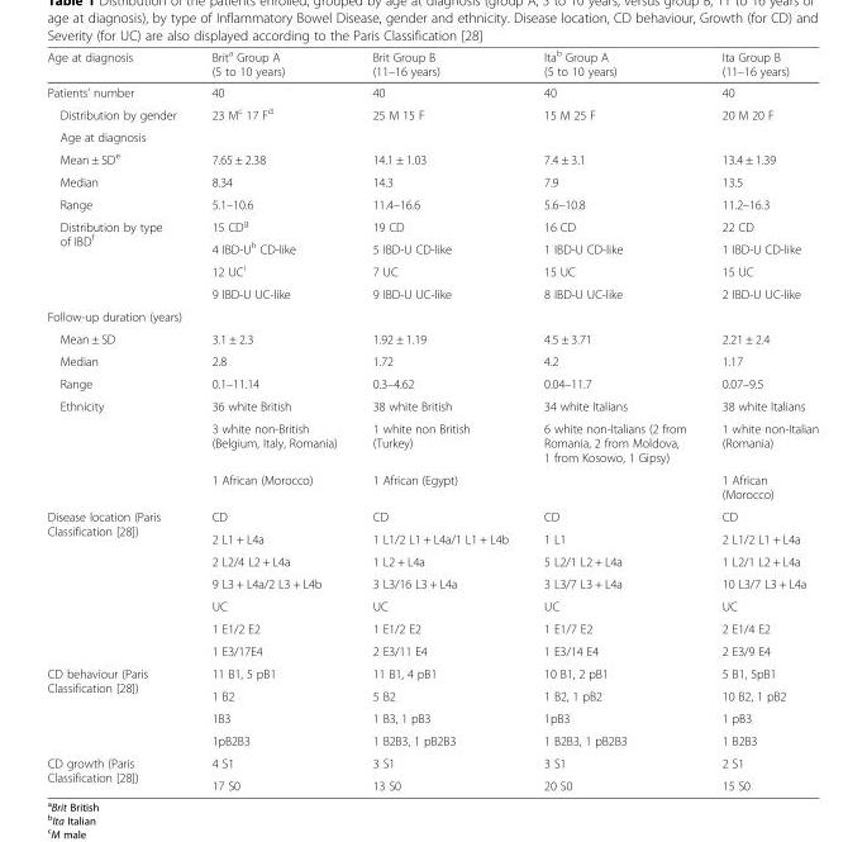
<table><thead><tr><td>Age at diagnosis</td><td>Brit<sup>a</sup> Group A (5 to 10 years)</td><td>Brit Group B (11–16 years)</td><td>Ita<sup>b</sup> Group A (5 to 10 years)</td><td>Ita Group B (11–16 years)</td></tr></thead><tbody><tr><td>Patients’ number</td><td>40</td><td>40</td><td>40</td><td>40</td></tr><tr><td>Distribution by gender</td><td>23 M<sup>c</sup> 17 F<sup>d</sup></td><td>25 M 15 F</td><td>15 M 25 F</td><td>20 M 20 F</td></tr><tr><td colspan="5">Age at diagnosis</td></tr><tr><td>Mean ± SD<sup>e</sup></td><td>7.65 ± 2.38</td><td>14.1 ± 1.03</td><td>7.4 ± 3.1</td><td>13.4 ± 1.39</td></tr><tr><td>Median</td><td>8.34</td><td>14.3</td><td>7.9</td><td>13.5</td></tr><tr><td>Range</td><td>5.1–10.6</td><td>11.4–16.6</td><td>5.6–10.8</td><td>11.2–16.3</td></tr><tr><td rowspan="4">Distribution by type of IBD<sup>f</sup></td><td>15 CD<sup>g</sup></td><td>19 CD</td><td>16 CD</td><td>22 CD</td></tr><tr><td>4 IBD-U<sup>h</sup> CD-like</td><td>5 IBD-U CD-like</td><td>1 IBD-U CD-like</td><td>1 IBD-U CD-like</td></tr><tr><td>12 UC<sup>i</sup></td><td>7 UC</td><td>15 UC</td><td>15 UC</td></tr><tr><td>9 IBD-U UC-like</td><td>9 IBD-U UC-like</td><td>8 IBD-U UC-like</td><td>2 IBD-U UC-like</td></tr><tr><td colspan="5">Follow-up duration (years)</td></tr><tr><td>Mean ± SD</td><td>3.1 ± 2.3</td><td>1.92 ± 1.19</td><td>4.5 ± 3.71</td><td>2.21 ± 2.4</td></tr><tr><td>Median</td><td>2.8</td><td>1.72</td><td>4.2</td><td>1.17</td></tr><tr><td>Range</td><td>0.1–11.14</td><td>0.3–4.62</td><td>0.04–11.7</td><td>0.07–9.5</td></tr><tr><td rowspan="3">Ethnicity</td><td>36 white British</td><td>38 white British</td><td>34 white Italians</td><td>38 white Italians</td></tr><tr><td>3 white non-British (Belgium, Italy, Romania)</td><td>1 white non British (Turkey)</td><td>6 white non-Italians (2 from Romania, 2 from Moldova, 1 from Kosowo, 1 Gipsy)</td><td>1 white non-Italian (Romania)</td></tr><tr><td>1 African (Morocco)</td><td>1 African (Egypt)</td><td></td><td>1 African (Morocco)</td></tr><tr><td rowspan="7">Disease location (Paris Classification [28])</td><td>CD</td><td>CD</td><td>CD</td><td>CD</td></tr><tr><td>2 L1 + L4a</td><td>1 L1/2 L1 + L4a/1 L1 + L4b</td><td>1 L1</td><td>2 L1/2 L1 + L4a</td></tr><tr><td>2 L2/4 L2 + L4a</td><td>1 L2 + L4a</td><td>5 L2/1 L2 + L4a</td><td>1 L2/1 L2 + L4a</td></tr><tr><td>9 L3 + L4a/2 L3 + L4b</td><td>3 L3/16 L3 + L4a</td><td>3 L3/7 L3 + L4a</td><td>10 L3/7 L3 + L4a</td></tr><tr><td>UC</td><td>UC</td><td>UC</td><td>UC</td></tr><tr><td>1 E1/2 E2</td><td>1 E1/2 E2</td><td>1 E1/7 E2</td><td>2 E1/4 E2</td></tr><tr><td>1 E3/17E4</td><td>2 E3/11 E4</td><td>1 E3/14 E4</td><td>2 E3/9 E4</td></tr><tr><td rowspan="4">CD behaviour (Paris Classification [28])</td><td>11 B1, 5 pB1</td><td>11 B1, 4 pB1</td><td>10 B1, 2 pB1</td><td>5 B1, 5pB1</td></tr><tr><td>1 B2</td><td>5 B2</td><td>1 B2, 1 pB2</td><td>10 B2, 1 pB2</td></tr><tr><td>1B3</td><td>1 B3, 1 pB3</td><td>1pB3</td><td>1 pB3</td></tr><tr><td>1pB2B3</td><td>1 B2B3, 1 pB2B3</td><td>1 B2B3, 1 pB2B3</td><td>1 B2B3</td></tr><tr><td rowspan="2">CD growth (Paris Classification [28])</td><td>4 S1</td><td>3 S1</td><td>3 S1</td><td>2 S1</td></tr><tr><td>17 S0</td><td>13 S0</td><td>20 S0</td><td>15 S0</td></tr></tbody></table>